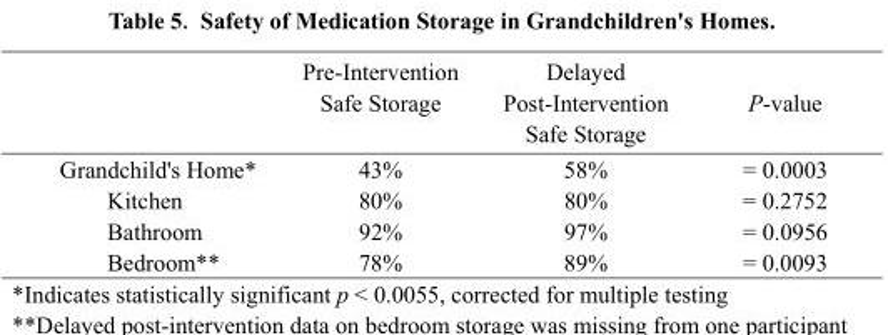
<table><thead><tr><td></td><td>Pre-Intervention Safe Storage</td><td>Delayed Post-Intervention Safe Storage</td><td>P-value</td></tr></thead><tbody><tr><td>Grandchild&#x27;s Home*</td><td>43%</td><td>58%</td><td>= 0.0003</td></tr><tr><td>Kitchen</td><td>80%</td><td>80%</td><td>= 0.2752</td></tr><tr><td>Bathroom</td><td>92%</td><td>97%</td><td>= 0.0956</td></tr><tr><td>Bedroom**</td><td>78%</td><td>89%</td><td>= 0.0093</td></tr></tbody></table>